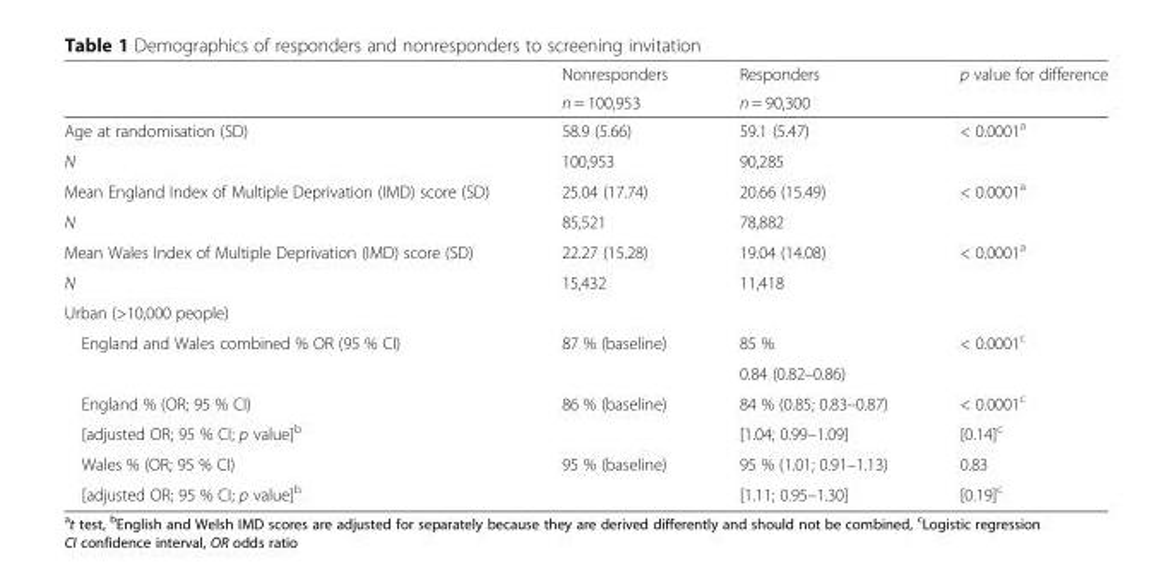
<table><thead><tr><td rowspan="2"></td><td rowspan="2">Nonresponders n = 100,953</td><td rowspan="2">Responders n = 90,300</td><td rowspan="2">p value for difference</td></tr><tr></tr></thead><tbody><tr><td>Age at randomisation (SD)</td><td>58.9 (5.66)</td><td>59.1 (5.47)</td><td>&lt; 0.0001<sup>a</sup></td></tr><tr><td>N</td><td>100,953</td><td>90,285</td><td></td></tr><tr><td>Mean England Index of Multiple Deprivation (IMD) score (SD)</td><td>25.04 (17.74)</td><td>20.66 (15.49)</td><td>&lt; 0.0001<sup>a</sup></td></tr><tr><td>N</td><td>85,521</td><td>78,882</td><td></td></tr><tr><td>Mean Wales Index of Multiple Deprivation (IMD) score (SD)</td><td>22.27 (15.28)</td><td>19.04 (14.08)</td><td>&lt; 0.0001<sup>a</sup></td></tr><tr><td>N</td><td>15,432</td><td>11,418</td><td></td></tr><tr><td colspan="4">Urban (&gt;10,000 people)</td></tr><tr><td rowspan="2">England and Wales combined % OR (95 % CI)</td><td rowspan="2">87 % (baseline)</td><td>85 %</td><td rowspan="2">&lt; 0.0001<sup>c</sup></td></tr><tr><td>0.84 (0.82–0.86)</td></tr><tr><td>England % (OR; 95 % CI)</td><td>86 % (baseline)</td><td>84 % (0.85; 0.83–0.87)</td><td>&lt; 0.0001<sup>c</sup></td></tr><tr><td>[adjusted OR; 95 % CI; p value]<sup>b</sup></td><td></td><td>[1.04; 0.99–1.09]</td><td>[0.14]<sup>c</sup></td></tr><tr><td>Wales % (OR; 95 % CI)</td><td>95 % (baseline)</td><td>95 % (1.01; 0.91–1.13)</td><td>0.83</td></tr><tr><td>[adjusted OR; 95 % CI; p value]<sup>b</sup></td><td></td><td>[1.11; 0.95–1.30]</td><td>[0.19]<sup>c</sup></td></tr></tbody></table>